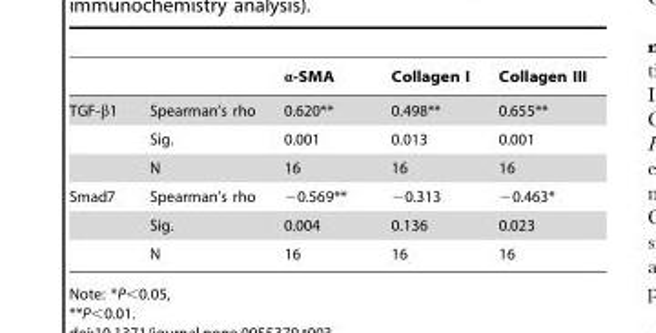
<table><thead><tr><td></td><td></td><td>α-SMA</td><td>Collagen I</td><td>Collagen III</td></tr></thead><tbody><tr><td rowspan="3">TGF-β1</td><td>Spearman’s rho</td><td>0.620**</td><td>0.498**</td><td>0.655**</td></tr><tr><td>Sig.</td><td>0.001</td><td>0.013</td><td>0.001</td></tr><tr><td>N</td><td>16</td><td>16</td><td>16</td></tr><tr><td rowspan="3">Smad7</td><td>Spearman’s rho</td><td>−0.569**</td><td>−0.313</td><td>−0.463*</td></tr><tr><td>Sig.</td><td>0.004</td><td>0.136</td><td>0.023</td></tr><tr><td>N</td><td>16</td><td>16</td><td>16</td></tr></tbody></table>